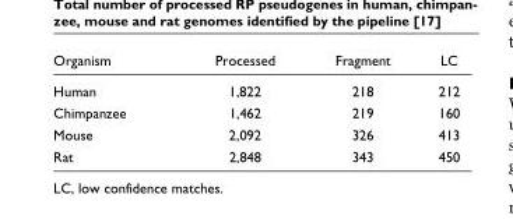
<table><thead><tr><td>Organism</td><td>Processed</td><td>Fragment</td><td>LC</td></tr></thead><tbody><tr><td>Human</td><td>1,822</td><td>218</td><td>212</td></tr><tr><td>Chimpanzee</td><td>1,462</td><td>219</td><td>160</td></tr><tr><td>Mouse</td><td>2,092</td><td>326</td><td>413</td></tr><tr><td>Rat</td><td>2,848</td><td>343</td><td>450</td></tr></tbody></table>